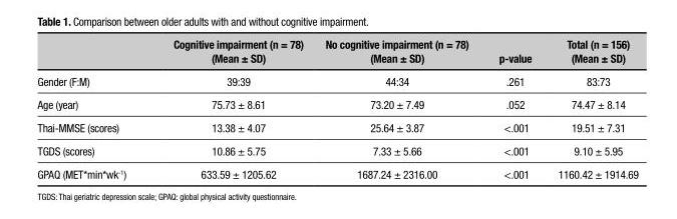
<table><thead><tr><td></td><td>Cognitive impairment (n = 78) (Mean ± SD)</td><td>No cognitive impairment (n = 78) (Mean ± SD)</td><td>p-value</td><td>Total (n = 156) (Mean ± SD)</td></tr></thead><tbody><tr><td>Gender (F:M)</td><td>39:39</td><td>44:34</td><td>.261</td><td>83:73</td></tr><tr><td>Age (year)</td><td>75.73 ± 8.61</td><td>73.20 ± 7.49</td><td>.052</td><td>74.47 ± 8.14</td></tr><tr><td>Thai-MMSE (scores)</td><td>13.38 ± 4.07</td><td>25.64 ± 3.87</td><td>&lt;.001</td><td>19.51 ± 7.31</td></tr><tr><td>TGDS (scores)</td><td>10.86 ± 5.75</td><td>7.33 ± 5.66</td><td>&lt;.001</td><td>9.10 ± 5.95</td></tr><tr><td>GPAQ (MET*min*wk<sup>-1</sup>)</td><td>633.59 ± 1205.62</td><td>1687.24 ± 2316.00</td><td>&lt;.001</td><td>1160.42 ± 1914.69</td></tr></tbody></table>